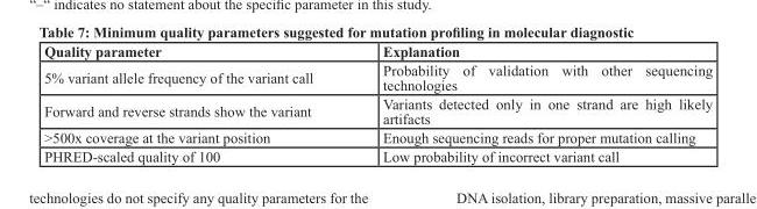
<table><thead><tr><td>Quality parameter</td><td>Explanation</td></tr></thead><tbody><tr><td>5% variant allele frequency of the variant call</td><td>Probability of validation with other sequencing technologies</td></tr><tr><td>Forward and reverse strands show the variant</td><td>Variants detected only in one strand are high likely artifacts</td></tr><tr><td>&gt;500x coverage at the variant position</td><td>Enough sequencing reads for proper mutation calling</td></tr><tr><td>PHRED-scaled quality of 100</td><td>Low probability of incorrect variant call</td></tr></tbody></table>